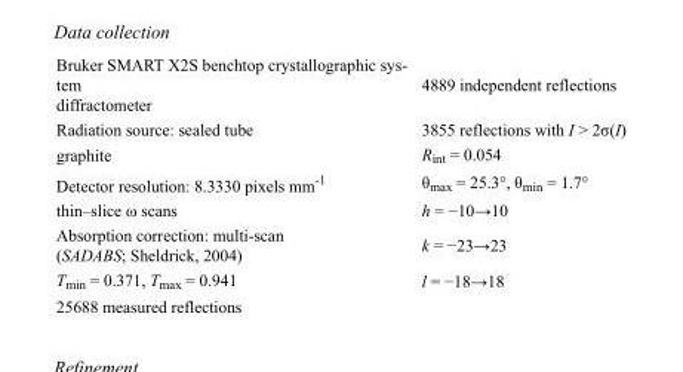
<table><tbody><tr><td>Bruker SMART X2S benchtop crystallographic sys- tem diffractometer</td><td>4889 independent reflections</td></tr><tr><td>Radiation source: sealed tube</td><td>3855 reflections with I &gt; 2σ(I)</td></tr><tr><td>graphite</td><td>R<sub>int</sub> = 0.054</td></tr><tr><td>Detector resolution: 8.3330 pixels mm<sup>-1</sup></td><td>θ<sub>max</sub> = 25.3°, θ<sub>min</sub> = 1.7°</td></tr><tr><td>thin–slice ω scans</td><td>h = −10→10</td></tr><tr><td>Absorption correction: multi-scan (SADABS; Sheldrick, 2004)</td><td>k = −23→23</td></tr><tr><td>T<sub>min</sub> = 0.371, T<sub>max</sub> = 0.941</td><td>l = −18→18</td></tr><tr><td>25688 measured reflections</td><td></td></tr></tbody></table>